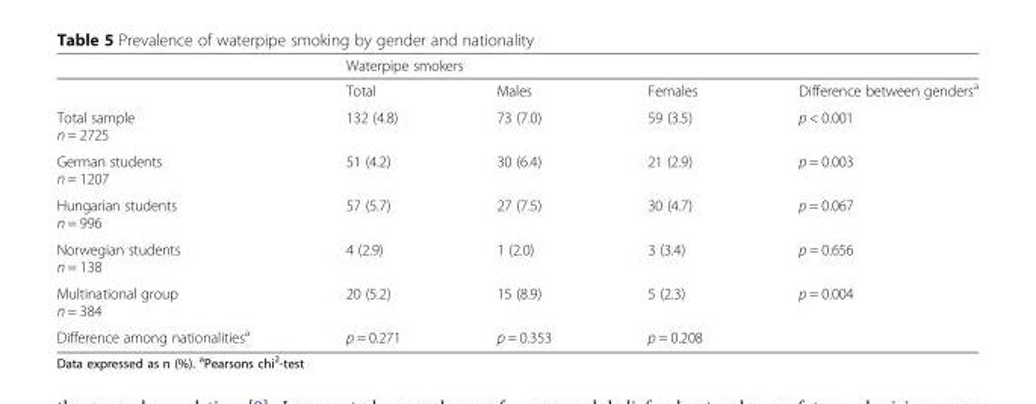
<table><thead><tr><td rowspan="2"></td><td colspan="3">Waterpipe smokers</td><td rowspan="2">Difference between genders<sup>a</sup></td></tr><tr><td>Total</td><td>Males</td><td>Females</td></tr></thead><tbody><tr><td>Total sample n = 2725</td><td>132 (4.8)</td><td>73 (7.0)</td><td>59 (3.5)</td><td>p &lt; 0.001</td></tr><tr><td>German students n = 1207</td><td>51 (4.2)</td><td>30 (6.4)</td><td>21 (2.9)</td><td>p = 0.003</td></tr><tr><td>Hungarian students n = 996</td><td>57 (5.7)</td><td>27 (7.5)</td><td>30 (4.7)</td><td>p = 0.067</td></tr><tr><td>Norwegian students n = 138</td><td>4 (2.9)</td><td>1 (2.0)</td><td>3 (3.4)</td><td>p = 0.656</td></tr><tr><td>Multinational group n = 384</td><td>20 (5.2)</td><td>15 (8.9)</td><td>5 (2.3)</td><td>p = 0.004</td></tr><tr><td>Difference among nationalities<sup>a</sup></td><td>p = 0.271</td><td>p = 0.353</td><td>p = 0.208</td><td></td></tr></tbody></table>